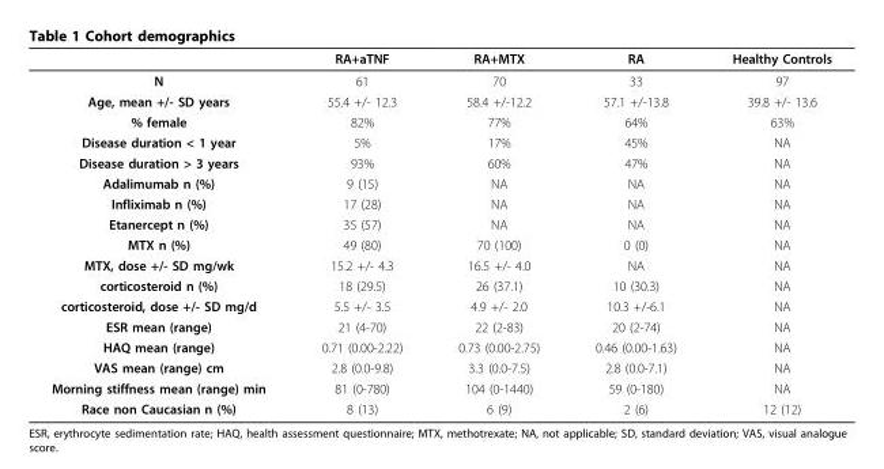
<table><thead><tr><td></td><td>RA+aTNF</td><td>RA+MTX</td><td>RA</td><td>Healthy Controls</td></tr></thead><tbody><tr><td>N</td><td>61</td><td>70</td><td>33</td><td>97</td></tr><tr><td>Age, mean +/- SD years</td><td>55.4 +/- 12.3</td><td>58.4 +/-12.2</td><td>57.1 +/-13.8</td><td>39.8 +/- 13.6</td></tr><tr><td>% female</td><td>82%</td><td>77%</td><td>64%</td><td>63%</td></tr><tr><td>Disease duration &lt; 1 year</td><td>5%</td><td>17%</td><td>45%</td><td>NA</td></tr><tr><td>Disease duration &gt; 3 years</td><td>93%</td><td>60%</td><td>47%</td><td>NA</td></tr><tr><td>Adalimumab n (%)</td><td>9 (15)</td><td>NA</td><td>NA</td><td>NA</td></tr><tr><td>Infliximab n (%)</td><td>17 (28)</td><td>NA</td><td>NA</td><td>NA</td></tr><tr><td>Etanercept n (%)</td><td>35 (57)</td><td>NA</td><td>NA</td><td>NA</td></tr><tr><td>MTX n (%)</td><td>49 (80)</td><td>70 (100)</td><td>0 (0)</td><td>NA</td></tr><tr><td>MTX, dose +/- SD mg/wk</td><td>15.2 +/- 4.3</td><td>16.5 +/- 4.0</td><td>NA</td><td>NA</td></tr><tr><td>corticosteroid n (%)</td><td>18 (29.5)</td><td>26 (37.1)</td><td>10 (30.3)</td><td>NA</td></tr><tr><td>corticosteroid, dose +/- SD mg/d</td><td>5.5 +/- 3.5</td><td>4.9 +/- 2.0</td><td>10.3 +/-6.1</td><td>NA</td></tr><tr><td>ESR mean (range)</td><td>21 (4-70)</td><td>22 (2-83)</td><td>20 (2-74)</td><td>NA</td></tr><tr><td>HAQ mean (range)</td><td>0.71 (0.00-2.22)</td><td>0.73 (0.00-2.75)</td><td>0.46 (0.00-1.63)</td><td>NA</td></tr><tr><td>VAS mean (range) cm</td><td>2.8 (0.0-9.8)</td><td>3.3 (0.0-7.5)</td><td>2.8 (0.0-7.1)</td><td>NA</td></tr><tr><td>Morning stiffness mean (range) min</td><td>81 (0-780)</td><td>104 (0-1440)</td><td>59 (0-180)</td><td>NA</td></tr><tr><td>Race non Caucasian n (%)</td><td>8 (13)</td><td>6 (9)</td><td>2 (6)</td><td>12 (12)</td></tr></tbody></table>